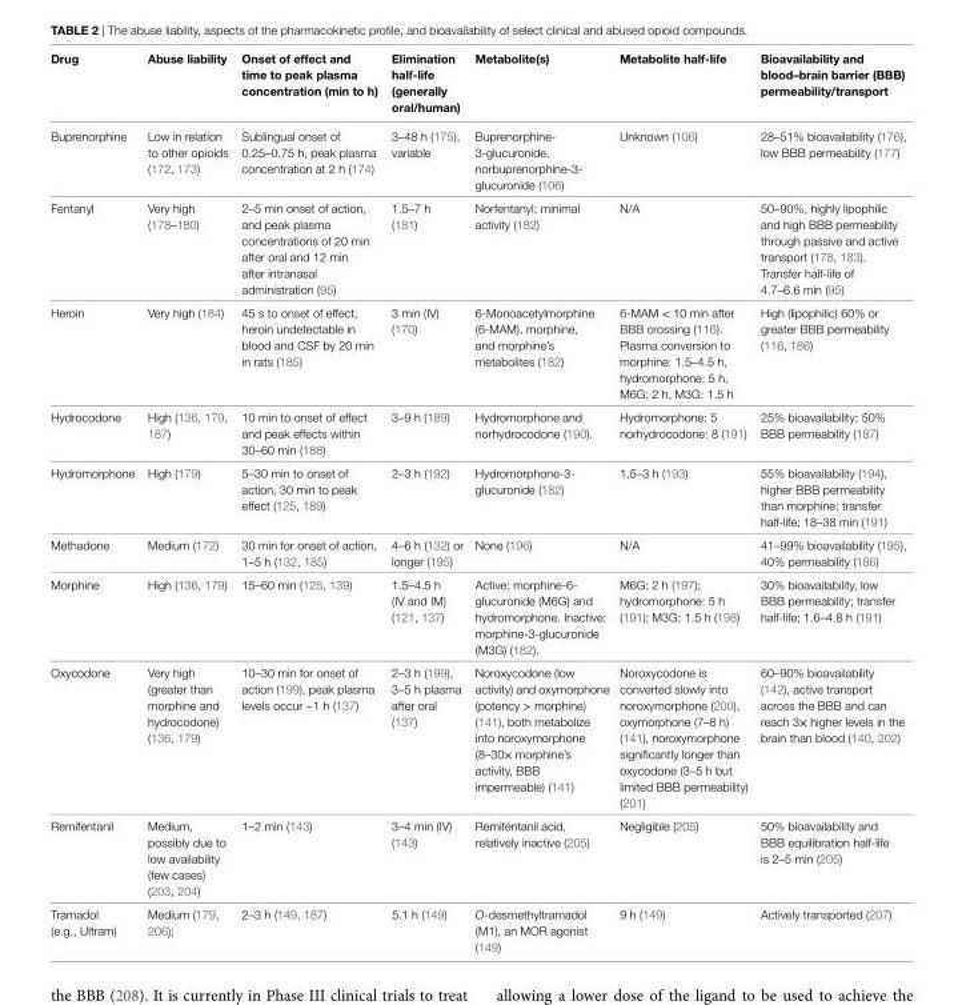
<table><thead><tr><td>Drug</td><td>Abuse liability</td><td>Onset of effect and time to peak plasma concentration (min to h)</td><td>elimination half-life (generally oral/human)</td><td>Metabolite(s)</td><td>Metabolite half-life</td><td>Bioavailability and blood–brain barrier (BBB) permeability/transport</td></tr></thead><tbody><tr><td>Buprenorphine</td><td>Low in relation to other opioids (172, 173)</td><td>Sublingual onset of 0.25–0.75 h, peak plasma concentration at 2 h (174)</td><td>3–48 h (175), variable</td><td>Buprenorphine- 3-glucuronide, norbuprenorphine-3- glucuronide (106)</td><td>Unknown (106)</td><td>28–51% bioavailability (176), low BBB permeability (177)</td></tr><tr><td>Fentanyl</td><td>Very high (178–180)</td><td>2–5 min onset of action, and peak plasma concentrations of 20 min after oral and 12 min after intranasal administration (95)</td><td>1.5–7 h (181)</td><td>Norfentanyl; minimal activity (182)</td><td>N/A</td><td>50–90%, highly lipophilic and high BBB permeability through passive and active transport (178, 183). Transfer half-life of 4.7–6.6 min (95)</td></tr><tr><td>Heroin</td><td>Very high (184)</td><td>45 s to onset of effect, heroin undetectable in blood and CSF by 20 min in rats (185)</td><td>3 min (IV) (170)</td><td>6-Monoacetylmorphine (6-MAM), morphine, and morphine’s metabolites (182)</td><td>6-MAM &lt; 10 min after BBB crossing (116). Plasma conversion to morphine: 1.5–4.5 h, hydromorphone: 5 h, M6G: 2 h, M3G: 1.5 h</td><td>High (lipophilic) 60% or greater BBB permeability (116, 186)</td></tr><tr><td>Hydrocodone</td><td>High (136, 179, 187)</td><td>10 min to onset of effect and peak effects within 30–60 min (188)</td><td>3–9 h (189)</td><td>Hydromorphone and norhydrocodone (190).</td><td>Hydromorphone: 5 norhydrocodone: 8 (191)</td><td>25% bioavailability; 50% BBB permeability (187)</td></tr><tr><td>Hydromorphone</td><td>High (179)</td><td>5–30 min to onset of action, 30 min to peak effect (125, 189)</td><td>2–3 h (192)</td><td>Hydromorphone-3- glucuronide (182)</td><td>1.5–3 h (193)</td><td>55% bioavailability (194), higher BBB permeability than morphine; transfer half-life; 18–38 min (191)</td></tr><tr><td>Methadone</td><td>Medium (172)</td><td>30 min for onset of action, 1–5 h (132, 185)</td><td>4–6 h (132) or longer (195)</td><td>None (196)</td><td>N/A</td><td>41–99% bioavailability (195), 40% permeability (186)</td></tr><tr><td>Morphine</td><td>High (136, 179)</td><td>15–60 min (125, 139)</td><td>1.5–4.5 h (IV and IM) (121, 137)</td><td>Active: morphine-6- glucuronide (M6G) and hydromorphone. Inactive: morphine-3-glucuronide (M3G) (182).</td><td>M6G: 2 h (197); hydromorphone: 5 h (191); M3G: 1.5 h (198)</td><td>30% bioavailability, low BBB permeability; transfer half-life; 1.6–4.8 h (191)</td></tr><tr><td>Oxycodone</td><td>Very high (greater than morphine and hydrocodone) (136, 179)</td><td>10–30 min for onset of action (199), peak plasma levels occur ~1 h (137)</td><td>2–3 h (199), 3–5 h plasma after oral (137)</td><td>Noroxycodone (low activity) and oxymorphone (potency &gt; morphine) (141), both metabolize into noroxymorphone (8–30× morphine’s activity, BBB impermeable) (141)</td><td>Noroxycodone is converted slowly into noroxymorphone (200), oxymorphone (7–8 h) (141), noroxymorphone significantly longer than oxycodone (3–5 h but limited BBB permeability) (201)</td><td>60–90% bioavailability (142), active transport across the BBB and can reach 3× higher levels in the brain than blood (140, 202)</td></tr><tr><td>Remifentanil</td><td>Medium, possibly due to low availability (few cases) (203, 204)</td><td>1–2 min (143)</td><td>3–4 min (IV) (143)</td><td>Remifentanil acid, relatively inactive (205)</td><td>Negligible (205)</td><td>50% bioavailability and BBB equilibration half-life is 2–5 min (205)</td></tr><tr><td>Tramadol (e.g., Ultram)</td><td>Medium (179, 206);</td><td>2–3 h (149, 187)</td><td>5.1 h (149)</td><td>O-desmethyltramadol (M1), an MOR agonist (149)</td><td>9 h (149)</td><td>Actively transported (207)</td></tr></tbody></table>